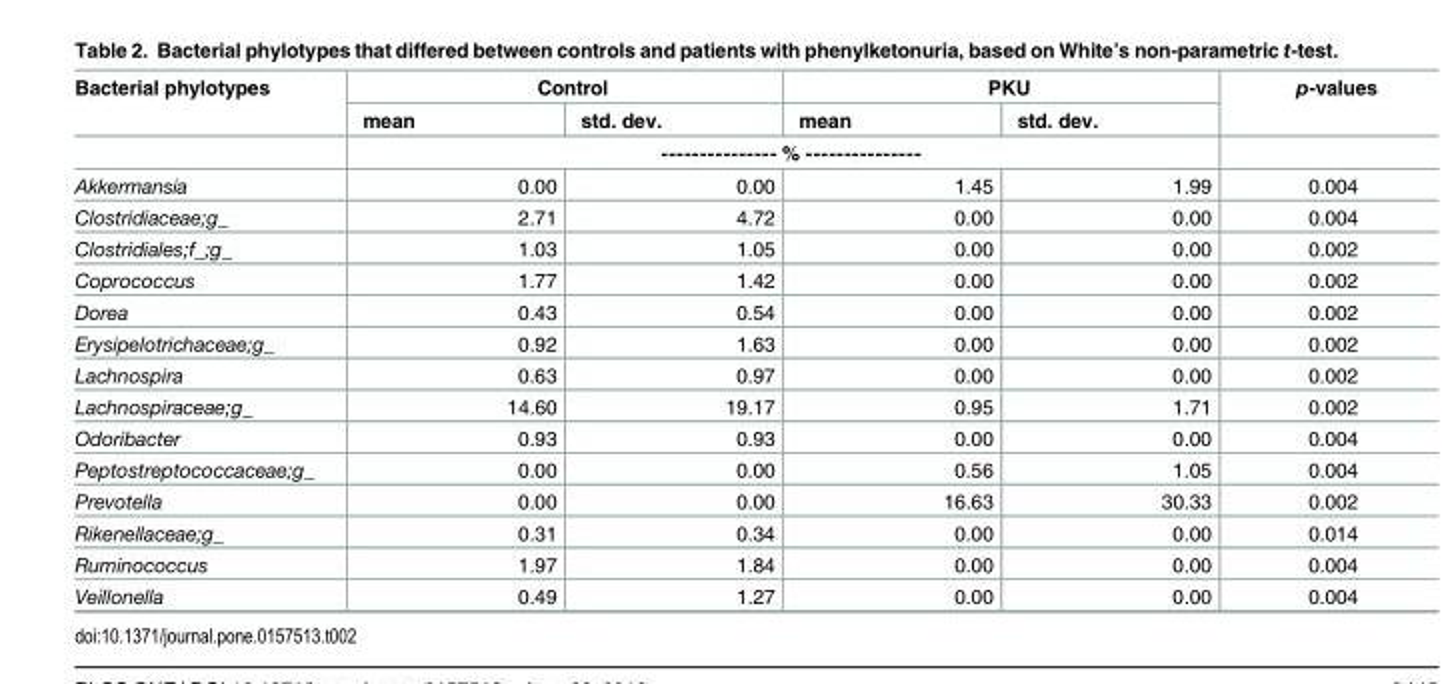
<table><thead><tr><td rowspan="3">Bacterial phylotypes</td><td colspan="2">Control</td><td colspan="2">PKU</td><td rowspan="3">p-values</td></tr><tr><td>mean</td><td>std. dev.</td><td>mean</td><td>std. dev.</td></tr><tr><td colspan="4">--------------- % ---------------</td></tr></thead><tbody><tr><td>Akkermansia</td><td>0.00</td><td>0.00</td><td>1.45</td><td>1.99</td><td>0.004</td></tr><tr><td>Clostridiaceae;g_</td><td>2.71</td><td>4.72</td><td>0.00</td><td>0.00</td><td>0.004</td></tr><tr><td>Clostridiales;f_;g_</td><td>1.03</td><td>1.05</td><td>0.00</td><td>0.00</td><td>0.002</td></tr><tr><td>Coprococcus</td><td>1.77</td><td>1.42</td><td>0.00</td><td>0.00</td><td>0.002</td></tr><tr><td>Dorea</td><td>0.43</td><td>0.54</td><td>0.00</td><td>0.00</td><td>0.002</td></tr><tr><td>Erysipelotrichaceae;g_</td><td>0.92</td><td>1.63</td><td>0.00</td><td>0.00</td><td>0.002</td></tr><tr><td>Lachnospira</td><td>0.63</td><td>0.97</td><td>0.00</td><td>0.00</td><td>0.002</td></tr><tr><td>Lachnospiraceae;g_</td><td>14.60</td><td>19.17</td><td>0.95</td><td>1.71</td><td>0.002</td></tr><tr><td>Odoribacter</td><td>0.93</td><td>0.93</td><td>0.00</td><td>0.00</td><td>0.004</td></tr><tr><td>Peptostreptococcaceae;g_</td><td>0.00</td><td>0.00</td><td>0.56</td><td>1.05</td><td>0.004</td></tr><tr><td>Prevotella</td><td>0.00</td><td>0.00</td><td>16.63</td><td>30.33</td><td>0.002</td></tr><tr><td>Rikenellaceae;g_</td><td>0.31</td><td>0.34</td><td>0.00</td><td>0.00</td><td>0.014</td></tr><tr><td>Ruminococcus</td><td>1.97</td><td>1.84</td><td>0.00</td><td>0.00</td><td>0.004</td></tr><tr><td>Veillonella</td><td>0.49</td><td>1.27</td><td>0.00</td><td>0.00</td><td>0.004</td></tr></tbody></table>